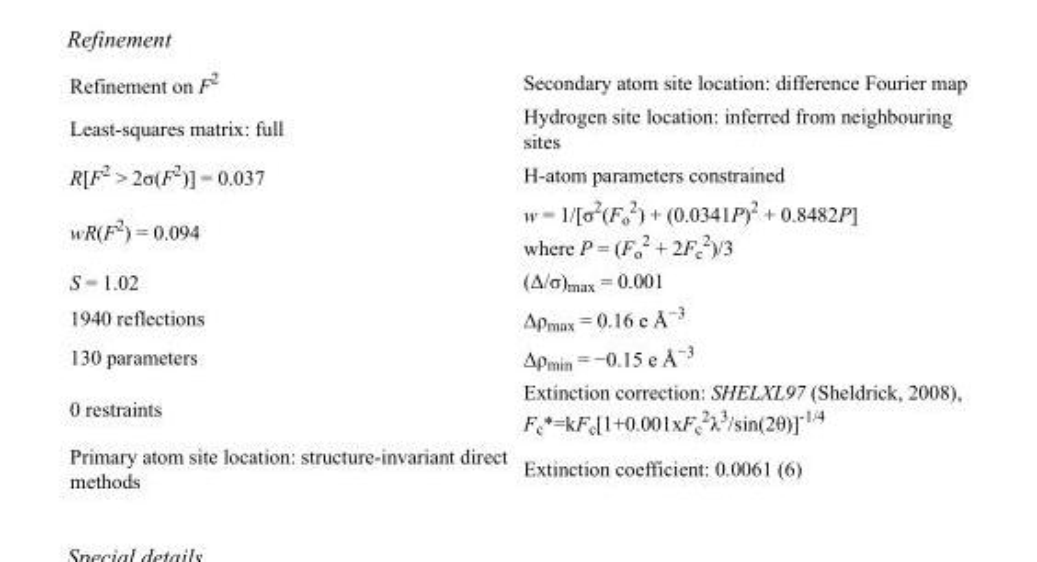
<table><tbody><tr><td>Refinement on F<sup>2</sup></td><td>Secondary atom site location: difference Fourier map</td></tr><tr><td>Least-squares matrix: full</td><td>Hydrogen site location: inferred from neighbouring sites</td></tr><tr><td>R[F<sup>2</sup> &gt; 2σ(F<sup>2</sup>)] = 0.037</td><td>H-atom parameters constrained</td></tr><tr><td>wR(F<sup>2</sup>) = 0.094</td><td>w = 1/[σ<sup>2</sup>(F<sub>o</sub> <sup>2</sup>) + (0.0341P)<sup>2</sup> + 0.8482P] where P = (F<sub>o</sub> <sup>2</sup> + 2F<sub>c</sub> <sup>2</sup>)/3</td></tr><tr><td>S = 1.02</td><td>(Δ/σ)<sub>max</sub> = 0.001</td></tr><tr><td>1940 reflections</td><td>Δρ<sub>max</sub> = 0.16 e Å<sup>−3</sup></td></tr><tr><td>130 parameters</td><td>Δρ<sub>min</sub> = −0.15 e Å<sup>−3</sup></td></tr><tr><td>0 restraints</td><td>Extinction correction: SHELXL97 (Sheldrick, 2008), F<sub>c</sub>*=kF<sub>c</sub>[1+0.001xF<sub>c</sub> <sup>2</sup>λ<sup>3</sup>/sin(2θ)]<sup>-1/4</sup></td></tr><tr><td>Primary atom site location: structure-invariant direct methods</td><td>Extinction coefficient: 0.0061 (6)</td></tr></tbody></table>